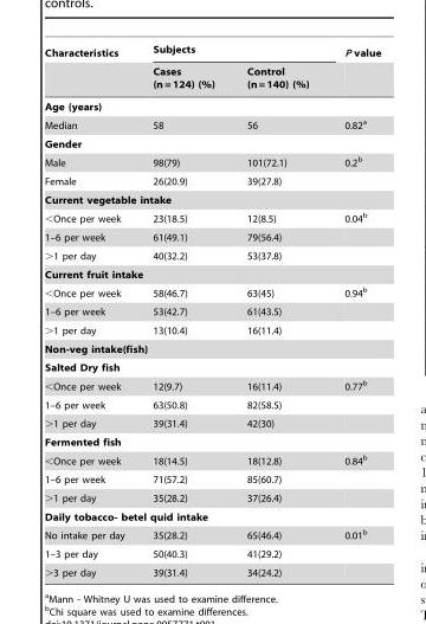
<table><thead><tr><td rowspan="2">Characteristics</td><td colspan="2">Subjects</td><td rowspan="2">P value</td></tr><tr><td>Cases (n = 124) (%)</td><td>Control (n = 140) (%)</td></tr></thead><tbody><tr><td colspan="4">Age (years)</td></tr><tr><td>Median</td><td>58</td><td>56</td><td>0.82<sup>a</sup></td></tr><tr><td colspan="4">Gender</td></tr><tr><td>Male</td><td>98(79)</td><td>101(72.1)</td><td>0.2<sup>b</sup></td></tr><tr><td>Female</td><td>26(20.9)</td><td>39(27.8)</td><td></td></tr><tr><td colspan="4">Current vegetable intake</td></tr><tr><td>&lt;Once per week</td><td>23(18.5)</td><td>12(8.5)</td><td>0.04<sup>b</sup></td></tr><tr><td>1–6 per week</td><td>61(49.1)</td><td>79(56.4)</td><td></td></tr><tr><td>&gt;1 per day</td><td>40(32.2)</td><td>53(37.8)</td><td></td></tr><tr><td colspan="4">Current fruit intake</td></tr><tr><td>&lt;Once per week</td><td>58(46.7)</td><td>63(45)</td><td>0.94<sup>b</sup></td></tr><tr><td>1–6 per week</td><td>53(42.7)</td><td>61(43.5)</td><td></td></tr><tr><td>&gt;1 per day</td><td>13(10.4)</td><td>16(11.4)</td><td></td></tr><tr><td colspan="4">Non-veg intake(fish)</td></tr><tr><td colspan="4">Salted Dry fish</td></tr><tr><td>&lt;Once per week</td><td>12(9.7)</td><td>16(11.4)</td><td>0.77<sup>b</sup></td></tr><tr><td>1–6 per week</td><td>63(50.8)</td><td>82(58.5)</td><td></td></tr><tr><td>&gt;1 per day</td><td>39(31.4)</td><td>42(30)</td><td></td></tr><tr><td colspan="4">Fermented fish</td></tr><tr><td>&lt;Once per week</td><td>18(14.5)</td><td>18(12.8)</td><td>0.84<sup>b</sup></td></tr><tr><td>1–6 per week</td><td>71(57.2)</td><td>85(60.7)</td><td></td></tr><tr><td>&gt;1 per day</td><td>35(28.2)</td><td>37(26.4)</td><td></td></tr><tr><td colspan="4">Daily tobacco- betel quid intake</td></tr><tr><td>No intake per day</td><td>35(28.2)</td><td>65(46.4)</td><td>0.01<sup>b</sup></td></tr><tr><td>1–3 per day</td><td>50(40.3)</td><td>41(29.2)</td><td></td></tr><tr><td>&gt;3 per day</td><td>39(31.4)</td><td>34(24.2)</td><td></td></tr></tbody></table>